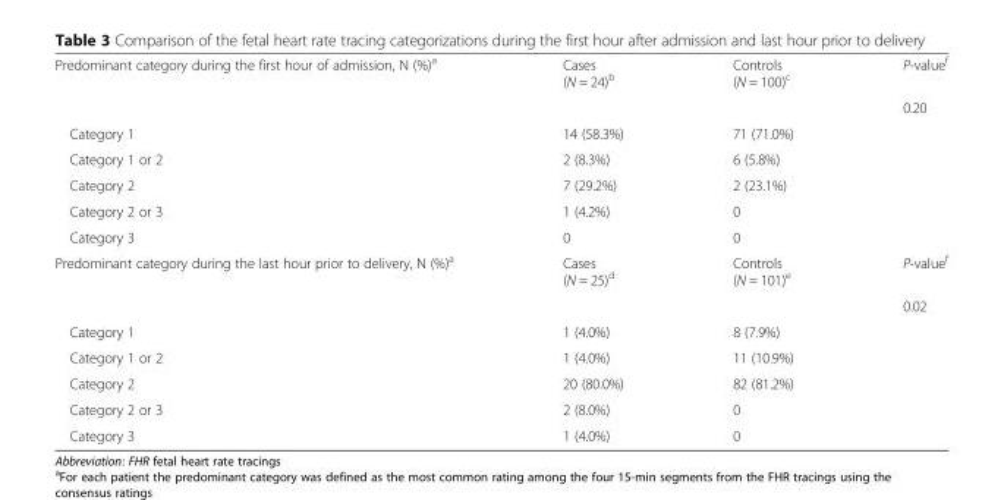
<table><tbody><tr><td rowspan="2">Predominant category during the first hour of admission, N (%)<sup>a</sup></td><td>Cases (N = 24)<sup>b</sup></td><td>Controls (N = 100)<sup>c</sup></td><td>P-value<sup>f</sup></td></tr><tr><td></td><td></td><td>0.20</td></tr><tr><td>Category 1</td><td>14 (58.3%)</td><td>71 (71.0%)</td><td></td></tr><tr><td>Category 1 or 2</td><td>2 (8.3%)</td><td>6 (5.8%)</td><td></td></tr><tr><td>Category 2</td><td>7 (29.2%)</td><td>2 (23.1%)</td><td></td></tr><tr><td>Category 2 or 3</td><td>1 (4.2%)</td><td>0</td><td></td></tr><tr><td>Category 3</td><td>0</td><td>0</td><td></td></tr><tr><td rowspan="2">Predominant category during the last hour prior to delivery, N (%)<sup>a</sup></td><td>Cases (N = 25)<sup>d</sup></td><td>Controls (N = 101)<sup>e</sup></td><td>P-value<sup>f</sup></td></tr><tr><td></td><td></td><td>0.02</td></tr><tr><td>Category 1</td><td>1 (4.0%)</td><td>8 (7.9%)</td><td></td></tr><tr><td>Category 1 or 2</td><td>1 (4.0%)</td><td>11 (10.9%)</td><td></td></tr><tr><td>Category 2</td><td>20 (80.0%)</td><td>82 (81.2%)</td><td></td></tr><tr><td>Category 2 or 3</td><td>2 (8.0%)</td><td>0</td><td></td></tr><tr><td>Category 3</td><td>1 (4.0%)</td><td>0</td><td></td></tr></tbody></table>